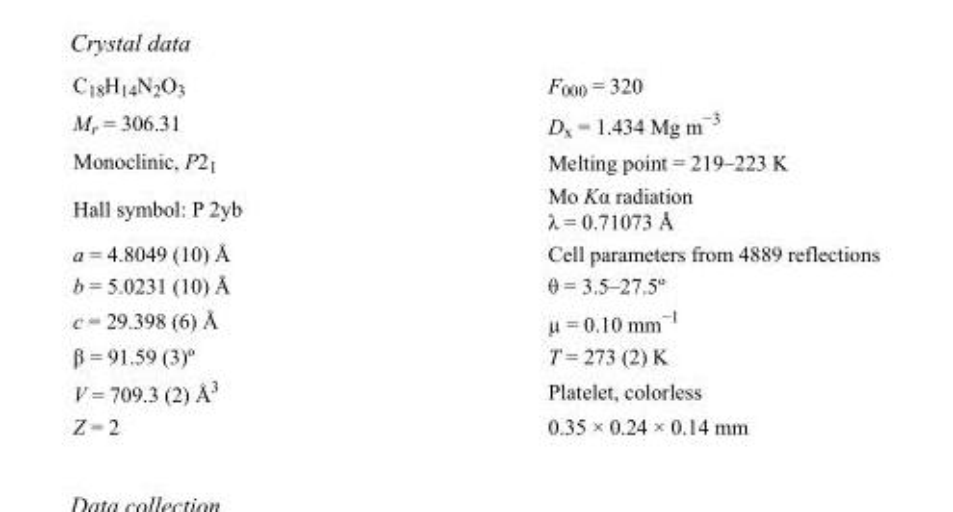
<table><tbody><tr><td>C<sub>18</sub>H<sub>14</sub>N<sub>2</sub>O<sub>3</sub></td><td>F<sub>000</sub> = 320</td></tr><tr><td>M<sub>r</sub> = 306.31</td><td>D<sub>x</sub> = 1.434 Mg m<sup>−3</sup></td></tr><tr><td>Monoclinic, P2<sub>1</sub></td><td>Melting point = 219–223 K</td></tr><tr><td>Hall symbol: P 2yb</td><td>Mo Kα radiation λ = 0.71073 Å</td></tr><tr><td>a = 4.8049 (10) Å</td><td>Cell parameters from 4889 reflections</td></tr><tr><td>b = 5.0231 (10) Å</td><td>θ = 3.5–27.5º</td></tr><tr><td>c = 29.398 (6) Å</td><td>µ = 0.10 mm<sup>−1</sup></td></tr><tr><td>β = 91.59 (3)º</td><td>T = 273 (2) K</td></tr><tr><td>V = 709.3 (2) Å<sup>3</sup></td><td>Platelet, colorless</td></tr><tr><td>Z = 2</td><td>0.35 × 0.24 × 0.14 mm</td></tr></tbody></table>